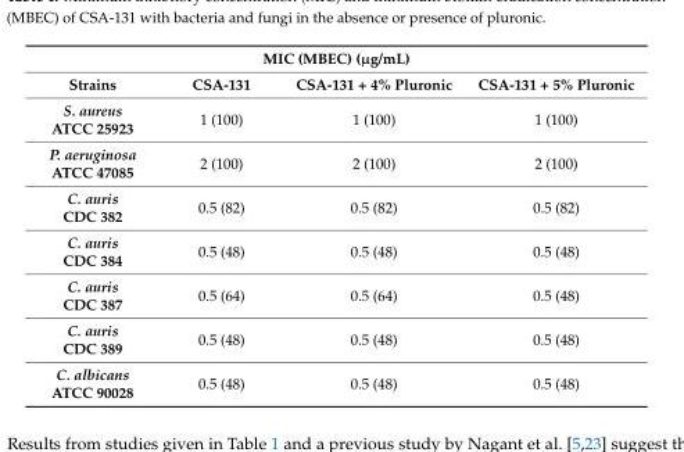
<table><thead><tr><td colspan="4">MIC (MBEC) (µg/mL)</td></tr><tr><td>Strains</td><td>CSA-131</td><td>CSA-131 + 4% Pluronic</td><td>CSA-131 + 5% Pluronic</td></tr></thead><tbody><tr><td>S. aureus ATCC 25923</td><td>1 (100)</td><td>1 (100)</td><td>1 (100)</td></tr><tr><td>P. aeruginosa ATCC 47085</td><td>2 (100)</td><td>2 (100)</td><td>2 (100)</td></tr><tr><td>C. auris CDC 382</td><td>0.5 (82)</td><td>0.5 (82)</td><td>0.5 (82)</td></tr><tr><td>C. auris CDC 384</td><td>0.5 (48)</td><td>0.5 (48)</td><td>0.5 (48)</td></tr><tr><td>C. auris CDC 387</td><td>0.5 (64)</td><td>0.5 (64)</td><td>0.5 (48)</td></tr><tr><td>C. auris CDC 389</td><td>0.5 (48)</td><td>0.5 (48)</td><td>0.5 (48)</td></tr><tr><td>C. albicans ATCC 90028</td><td>0.5 (48)</td><td>0.5 (48)</td><td>0.5 (48)</td></tr></tbody></table>